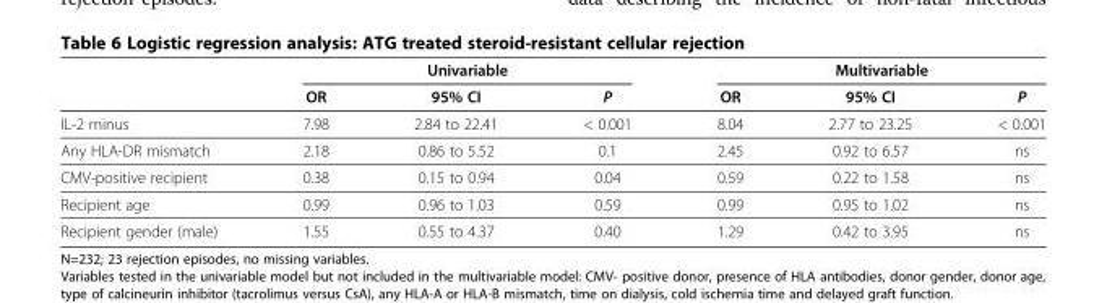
<table><thead><tr><td rowspan="2"></td><td colspan="3">Univariable</td><td colspan="3">Multivariable</td></tr><tr><td>OR</td><td>95% CI</td><td>P</td><td>OR</td><td>95% CI</td><td>P</td></tr></thead><tbody><tr><td>IL-2 minus</td><td>7.98</td><td>2.84 to 22.41</td><td>&lt; 0.001</td><td>8.04</td><td>2.77 to 23.25</td><td>&lt; 0.001</td></tr><tr><td>Any HLA-DR mismatch</td><td>2.18</td><td>0.86 to 5.52</td><td>0.1</td><td>2.45</td><td>0.92 to 6.57</td><td>ns</td></tr><tr><td>CMV-positive recipient</td><td>0.38</td><td>0.15 to 0.94</td><td>0.04</td><td>0.59</td><td>0.22 to 1.58</td><td>ns</td></tr><tr><td>Recipient age</td><td>0.99</td><td>0.96 to 1.03</td><td>0.59</td><td>0.99</td><td>0.95 to 1.02</td><td>ns</td></tr><tr><td>Recipient gender (male)</td><td>1.55</td><td>0.55 to 4.37</td><td>0.40</td><td>1.29</td><td>0.42 to 3.95</td><td>ns</td></tr></tbody></table>